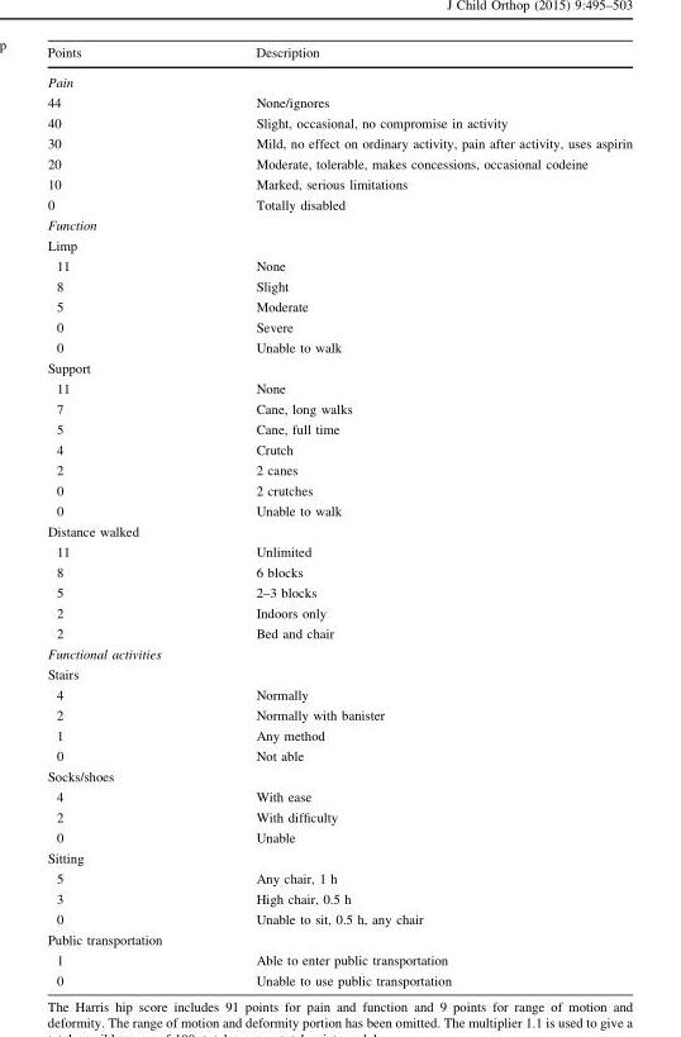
<table><thead><tr><td>Points</td><td>Description</td></tr></thead><tbody><tr><td colspan="2">Pain</td></tr><tr><td>44</td><td>None/ignores</td></tr><tr><td>40</td><td>Slight, occasional, no compromise in activity</td></tr><tr><td>30</td><td>Mild, no effect on ordinary activity, pain after activity, uses aspirin</td></tr><tr><td>20</td><td>Moderate, tolerable, makes concessions, occasional codeine</td></tr><tr><td>10</td><td>Marked, serious limitations</td></tr><tr><td>0</td><td>Totally disabled</td></tr><tr><td colspan="2">Function</td></tr><tr><td colspan="2">Limp</td></tr><tr><td>11</td><td>None</td></tr><tr><td>8</td><td>Slight</td></tr><tr><td>5</td><td>Moderate</td></tr><tr><td>0</td><td>Severe</td></tr><tr><td>0</td><td>Unable to walk</td></tr><tr><td colspan="2">Support</td></tr><tr><td>11</td><td>None</td></tr><tr><td>7</td><td>Cane, long walks</td></tr><tr><td>5</td><td>Cane, full time</td></tr><tr><td>4</td><td>Crutch</td></tr><tr><td>2</td><td>2 canes</td></tr><tr><td>0</td><td>2 crutches</td></tr><tr><td>0</td><td>Unable to walk</td></tr><tr><td colspan="2">Distance walked</td></tr><tr><td>11</td><td>Unlimited</td></tr><tr><td>8</td><td>6 blocks</td></tr><tr><td>5</td><td>2–3 blocks</td></tr><tr><td>2</td><td>Indoors only</td></tr><tr><td>2</td><td>Bed and chair</td></tr><tr><td colspan="2">Functional activities</td></tr><tr><td colspan="2">Stairs</td></tr><tr><td>4</td><td>Normally</td></tr><tr><td>2</td><td>Normally with banister</td></tr><tr><td>1</td><td>Any method</td></tr><tr><td>0</td><td>Not able</td></tr><tr><td colspan="2">Socks/shoes</td></tr><tr><td>4</td><td>With ease</td></tr><tr><td>2</td><td>With difficulty</td></tr><tr><td>0</td><td>Unable</td></tr><tr><td colspan="2">Sitting</td></tr><tr><td>5</td><td>Any chair, 1 h</td></tr><tr><td>3</td><td>High chair, 0.5 h</td></tr><tr><td>0</td><td>Unable to sit, 0.5 h, any chair</td></tr><tr><td colspan="2">Public transportation</td></tr><tr><td>1</td><td>Able to enter public transportation</td></tr><tr><td>0</td><td>Unable to use public transportation</td></tr></tbody></table>